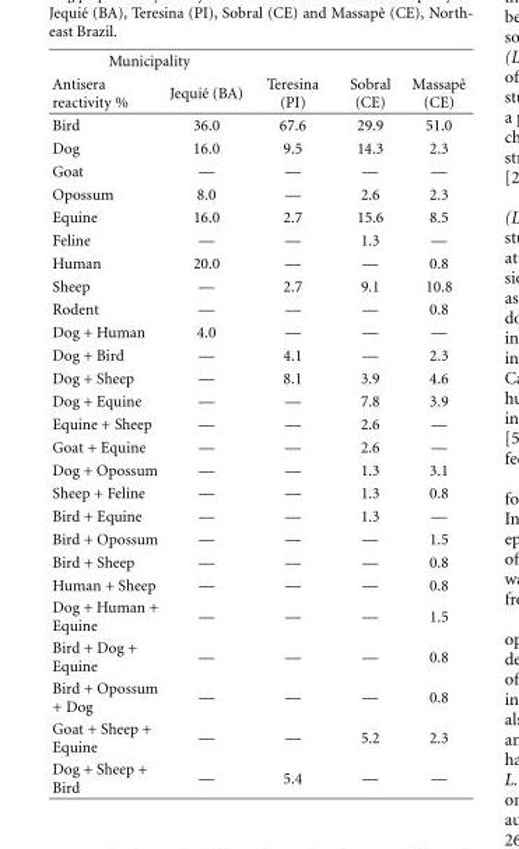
<table><thead><tr><td colspan="2">Municipality</td><td rowspan="2">Teresina (PI)</td><td rowspan="2">Sobral (CE)</td><td rowspan="2">Massapˆe (CE)</td></tr><tr><td>Antisera reactivity %</td><td>Jequi´e (BA)</td></tr></thead><tbody><tr><td>Bird</td><td>36.0</td><td>67.6</td><td>29.9</td><td>51.0</td></tr><tr><td>Dog</td><td>16.0</td><td>9.5</td><td>14.3</td><td>2.3</td></tr><tr><td>Goat</td><td>—</td><td>—</td><td>—</td><td>—</td></tr><tr><td>Opossum</td><td>8.0</td><td>—</td><td>2.6</td><td>2.3</td></tr><tr><td>Equine</td><td>16.0</td><td>2.7</td><td>15.6</td><td>8.5</td></tr><tr><td>Feline</td><td>—</td><td>—</td><td>1.3</td><td>—</td></tr><tr><td>Human</td><td>20.0</td><td>—</td><td>—</td><td>0.8</td></tr><tr><td>Sheep</td><td>—</td><td>2.7</td><td>9.1</td><td>10.8</td></tr><tr><td>Rodent</td><td>—</td><td>—</td><td>—</td><td>0.8</td></tr><tr><td>Dog + Human</td><td>4.0</td><td>—</td><td>—</td><td>—</td></tr><tr><td>Dog + Bird</td><td>—</td><td>4.1</td><td>—</td><td>2.3</td></tr><tr><td>Dog + Sheep</td><td>—</td><td>8.1</td><td>3.9</td><td>4.6</td></tr><tr><td>Dog + Equine</td><td>—</td><td>—</td><td>7.8</td><td>3.9</td></tr><tr><td>Equine + Sheep</td><td>—</td><td>—</td><td>2.6</td><td>—</td></tr><tr><td>Goat + Equine</td><td>—</td><td>—</td><td>2.6</td><td>—</td></tr><tr><td>Dog + Opossum</td><td>—</td><td>—</td><td>1.3</td><td>3.1</td></tr><tr><td>Sheep + Feline</td><td>—</td><td>—</td><td>1.3</td><td>0.8</td></tr><tr><td>Bird + Equine</td><td>—</td><td>—</td><td>1.3</td><td>—</td></tr><tr><td>Bird + Opossum</td><td>—</td><td>—</td><td>—</td><td>1.5</td></tr><tr><td>Bird + Sheep</td><td>—</td><td>—</td><td>—</td><td>0.8</td></tr><tr><td>Human + Sheep</td><td>—</td><td>—</td><td>—</td><td>0.8</td></tr><tr><td>Dog + Human + Equine</td><td>—</td><td>—</td><td>—</td><td>1.5</td></tr><tr><td>Bird + Dog + Equine</td><td>—</td><td>—</td><td>—</td><td>0.8</td></tr><tr><td>Bird + Opossum + Dog</td><td>—</td><td>—</td><td>—</td><td>0.8</td></tr><tr><td>Goat + Sheep + Equine</td><td>—</td><td>—</td><td>5.2</td><td>2.3</td></tr><tr><td>Dog + Sheep + Bird</td><td>—</td><td>5.4</td><td>—</td><td>—</td></tr></tbody></table>